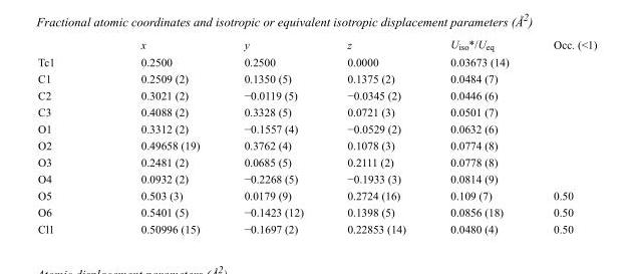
<table><thead><tr><td></td><td>x</td><td>y</td><td>z</td><td>U<sub>iso</sub>*/U<sub>eq</sub></td><td>Occ. (&lt;1)</td></tr></thead><tbody><tr><td>Tc1</td><td>0.2500</td><td>0.2500</td><td>0.0000</td><td>0.03673 (14)</td><td></td></tr><tr><td>C1</td><td>0.2509 (2)</td><td>0.1350 (5)</td><td>0.1375 (2)</td><td>0.0484 (7)</td><td></td></tr><tr><td>C2</td><td>0.3021 (2)</td><td>−0.0119 (5)</td><td>−0.0345 (2)</td><td>0.0446 (6)</td><td></td></tr><tr><td>C3</td><td>0.4088 (2)</td><td>0.3328 (5)</td><td>0.0721 (3)</td><td>0.0501 (7)</td><td></td></tr><tr><td>O1</td><td>0.3312 (2)</td><td>−0.1557 (4)</td><td>−0.0529 (2)</td><td>0.0632 (6)</td><td></td></tr><tr><td>O2</td><td>0.49658 (19)</td><td>0.3762 (4)</td><td>0.1078 (3)</td><td>0.0774 (8)</td><td></td></tr><tr><td>O3</td><td>0.2481 (2)</td><td>0.0685 (5)</td><td>0.2111 (2)</td><td>0.0778 (8)</td><td></td></tr><tr><td>O4</td><td>0.0932 (2)</td><td>−0.2268 (5)</td><td>−0.1933 (3)</td><td>0.0814 (9)</td><td></td></tr><tr><td>O5</td><td>0.503 (3)</td><td>0.0179 (9)</td><td>0.2724 (16)</td><td>0.109 (7)</td><td>0.50</td></tr><tr><td>O6</td><td>0.5401 (5)</td><td>−0.1423 (12)</td><td>0.1398 (5)</td><td>0.0856 (18)</td><td>0.50</td></tr><tr><td>Cl1</td><td>0.50996 (15)</td><td>−0.1697 (2)</td><td>0.22853 (14)</td><td>0.0480 (4)</td><td>0.50</td></tr></tbody></table>